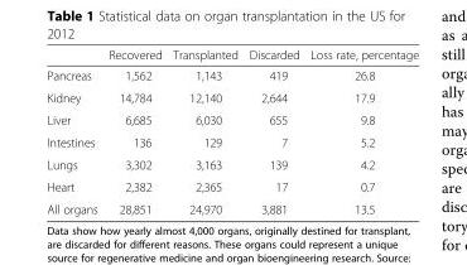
<table><thead><tr><td></td><td>Recovered</td><td>Transplanted</td><td>Discarded</td><td>Loss rate, percentage</td></tr></thead><tbody><tr><td>Pancreas</td><td>1,562</td><td>1,143</td><td>419</td><td>26.8</td></tr><tr><td>Kidney</td><td>14,784</td><td>12,140</td><td>2,644</td><td>17.9</td></tr><tr><td>Liver</td><td>6,685</td><td>6,030</td><td>655</td><td>9.8</td></tr><tr><td>Intestines</td><td>136</td><td>129</td><td>7</td><td>5.2</td></tr><tr><td>Lungs</td><td>3,302</td><td>3,163</td><td>139</td><td>4.2</td></tr><tr><td>Heart</td><td>2,382</td><td>2,365</td><td>17</td><td>0.7</td></tr><tr><td>All organs</td><td>28,851</td><td>24,970</td><td>3,881</td><td>13.5</td></tr></tbody></table>